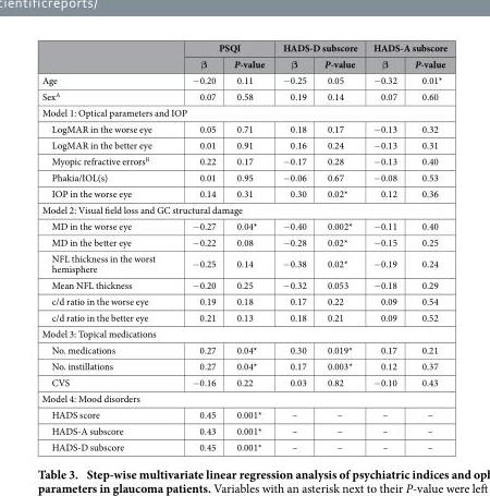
<table><thead><tr><td rowspan="2"></td><td colspan="2">PSQI</td><td colspan="2">HADS-D subscore</td><td colspan="2">HADS-A subscore</td></tr><tr><td>β</td><td>P-value</td><td>β</td><td>P-value</td><td>β</td><td>P-value</td></tr></thead><tbody><tr><td>Age</td><td>− 0.20</td><td>0.11</td><td>− 0.25</td><td>0.05</td><td>− 0.32</td><td>0.01*</td></tr><tr><td>Sex<sup>A</sup></td><td>0.07</td><td>0.58</td><td>0.19</td><td>0.14</td><td>0.07</td><td>0.60</td></tr><tr><td colspan="7">Model 1: Optical parameters and IOP</td></tr><tr><td>LogMAR in the worse eye</td><td>0.05</td><td>0.71</td><td>0.18</td><td>0.17</td><td>− 0.13</td><td>0.32</td></tr><tr><td>LogMAR in the better eye</td><td>0.01</td><td>0.91</td><td>0.16</td><td>0.24</td><td>− 0.13</td><td>0.31</td></tr><tr><td>Myopic refractive errors<sup>B</sup></td><td>0.22</td><td>0.17</td><td>− 0.17</td><td>0.28</td><td>− 0.13</td><td>0.40</td></tr><tr><td>Phakia/IOL(s)</td><td>0.01</td><td>0.95</td><td>− 0.06</td><td>0.67</td><td>− 0.08</td><td>0.53</td></tr><tr><td>IOP in the worse eye</td><td>0.14</td><td>0.31</td><td>0.30</td><td>0.02*</td><td>0.12</td><td>0.36</td></tr><tr><td colspan="7">Model 2: Visual field loss and GC structural damage</td></tr><tr><td>MD in the worse eye</td><td>− 0.27</td><td>0.04*</td><td>− 0.40</td><td>0.002*</td><td>− 0.11</td><td>0.40</td></tr><tr><td>MD in the better eye</td><td>− 0.22</td><td>0.08</td><td>− 0.28</td><td>0.02*</td><td>− 0.15</td><td>0.25</td></tr><tr><td>NFL thickness in the worst hemisphere</td><td>− 0.25</td><td>0.14</td><td>− 0.38</td><td>0.02*</td><td>− 0.19</td><td>0.24</td></tr><tr><td>Mean NFL thickness</td><td>− 0.20</td><td>0.25</td><td>− 0.32</td><td>0.053</td><td>− 0.18</td><td>0.29</td></tr><tr><td>c/d ratio in the worse eye</td><td>0.19</td><td>0.18</td><td>0.17</td><td>0.22</td><td>0.09</td><td>0.54</td></tr><tr><td>c/d ratio in the better eye</td><td>0.21</td><td>0.13</td><td>0.18</td><td>0.21</td><td>0.09</td><td>0.52</td></tr><tr><td colspan="7">Model 3: Topical medications</td></tr><tr><td>No. medications</td><td>0.27</td><td>0.04*</td><td>0.30</td><td>0.019*</td><td>0.17</td><td>0.21</td></tr><tr><td>No. instillations</td><td>0.27</td><td>0.04*</td><td>0.17</td><td>0.003*</td><td>0.12</td><td>0.37</td></tr><tr><td>CVS</td><td>− 0.16</td><td>0.22</td><td>0.03</td><td>0.82</td><td>− 0.10</td><td>0.43</td></tr><tr><td colspan="7">Model 4: Mood disorders</td></tr><tr><td>HADS score</td><td>0.45</td><td>0.001*</td><td>–</td><td>–</td><td>–</td><td>–</td></tr><tr><td>HADS-A subscore</td><td>0.43</td><td>0.001*</td><td>–</td><td>–</td><td>–</td><td>–</td></tr><tr><td>HADS-D subscore</td><td>0.45</td><td>0.001*</td><td>–</td><td>–</td><td>–</td><td>–</td></tr></tbody></table>